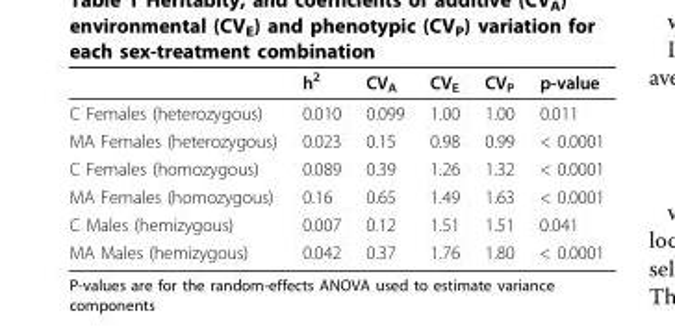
<table><thead><tr><td></td><td>h<sup>2</sup></td><td>CV<sub>A</sub></td><td>CV<sub>E</sub></td><td>CV<sub>P</sub></td><td>p-value</td></tr></thead><tbody><tr><td>C Females (heterozygous)</td><td>0.010</td><td>0.099</td><td>1.00</td><td>1.00</td><td>0.011</td></tr><tr><td>MA Females (heterozygous)</td><td>0.023</td><td>0.15</td><td>0.98</td><td>0.99</td><td>&lt; 0.0001</td></tr><tr><td>C Females (homozygous)</td><td>0.089</td><td>0.39</td><td>1.26</td><td>1.32</td><td>&lt; 0.0001</td></tr><tr><td>MA Females (homozygous)</td><td>0.16</td><td>0.65</td><td>1.49</td><td>1.63</td><td>&lt; 0.0001</td></tr><tr><td>C Males (hemizygous)</td><td>0.007</td><td>0.12</td><td>1.51</td><td>1.51</td><td>0.041</td></tr><tr><td>MA Males (hemizygous)</td><td>0.042</td><td>0.37</td><td>1.76</td><td>1.80</td><td>&lt; 0.0001</td></tr></tbody></table>